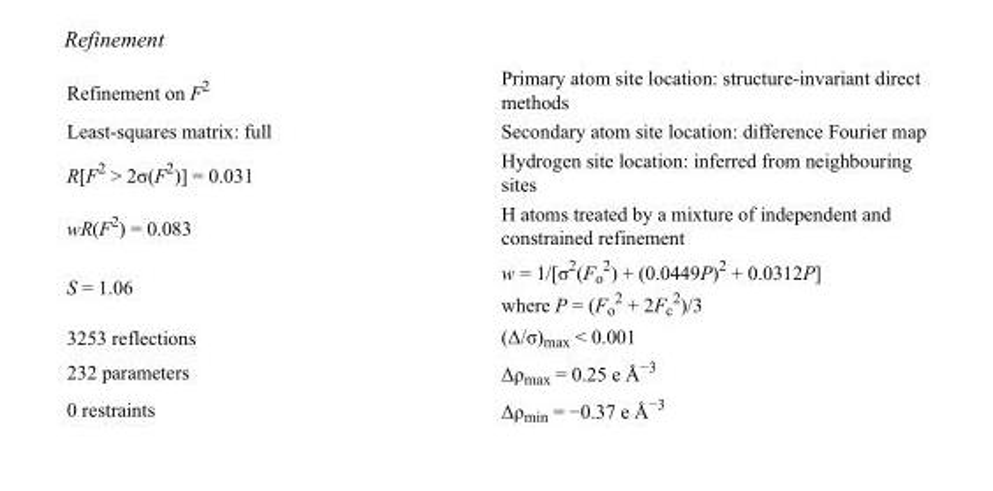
<table><tbody><tr><td>Refinement on F<sup>2</sup></td><td>Primary atom site location: structure-invariant direct methods</td></tr><tr><td>Least-squares matrix: full</td><td>Secondary atom site location: difference Fourier map</td></tr><tr><td>R[F<sup>2</sup> &gt; 2σ(F<sup>2</sup>)] = 0.031</td><td>Hydrogen site location: inferred from neighbouring sites</td></tr><tr><td>wR(F<sup>2</sup>) = 0.083</td><td>H atoms treated by a mixture of independent and constrained refinement</td></tr><tr><td>S = 1.06</td><td>w = 1/[σ<sup>2</sup>(F<sub>o</sub> <sup>2</sup>) + (0.0449P)<sup>2</sup> + 0.0312P] where P = (F<sub>o</sub> <sup>2</sup> + 2F<sub>c</sub> <sup>2</sup>)/3</td></tr><tr><td>3253 reflections</td><td>(Δ/σ)<sub>max</sub> &lt; 0.001</td></tr><tr><td>232 parameters</td><td>Δρ<sub>max</sub> = 0.25 e Å<sup>−3</sup></td></tr><tr><td>0 restraints</td><td>Δρ<sub>min</sub> = −0.37 e Å<sup>−3</sup></td></tr></tbody></table>